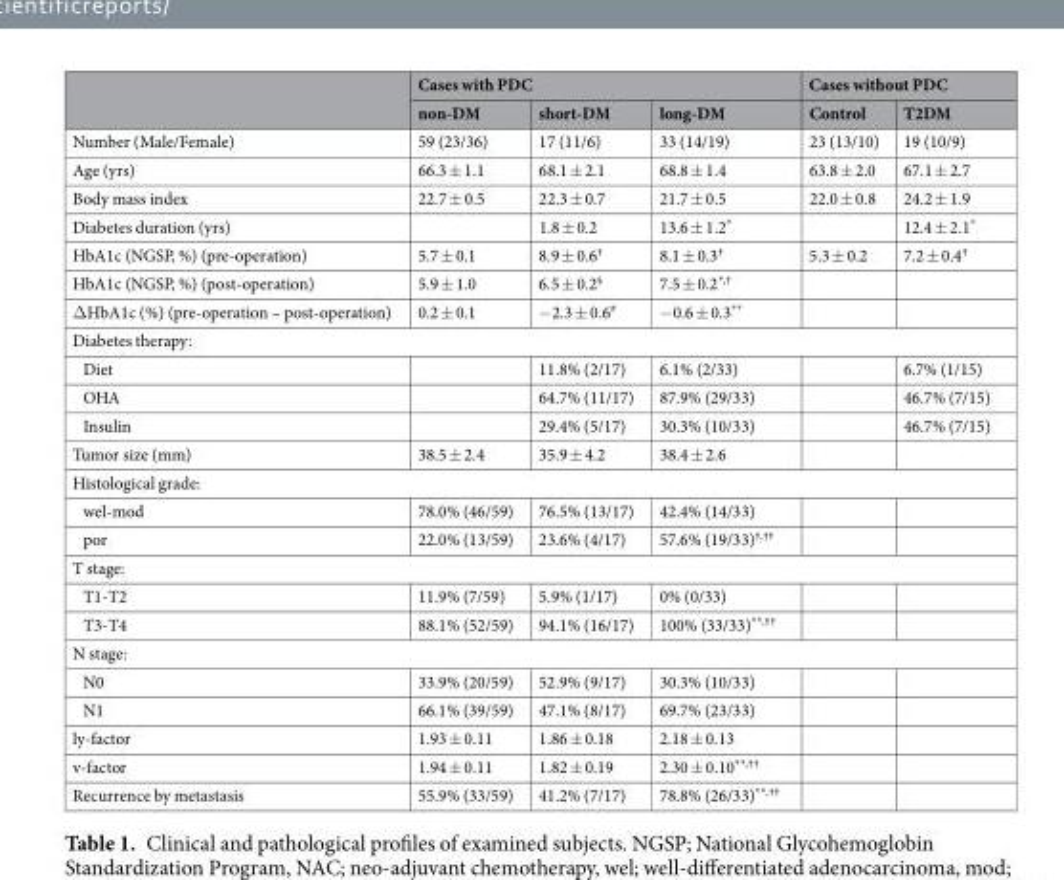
<table><thead><tr><td rowspan="2"></td><td colspan="3">Cases with PDC</td><td colspan="2">Cases without PDC</td></tr><tr><td>non-DM</td><td>short-DM</td><td>long-DM</td><td>Control</td><td>T2DM</td></tr></thead><tbody><tr><td>Number (Male/Female)</td><td>59 (23/36)</td><td>17 (11/6)</td><td>33 (14/19)</td><td>23 (13/10)</td><td>19 (10/9)</td></tr><tr><td>Age (yrs)</td><td>66.3 ± 1.1</td><td>68.1 ± 2.1</td><td>68.8 ± 1.4</td><td>63.8 ± 2.0</td><td>67.1 ± 2.7</td></tr><tr><td>Body mass index</td><td>22.7 ± 0.5</td><td>22.3 ± 0.7</td><td>21.7 ± 0.5</td><td>22.0 ± 0.8</td><td>24.2 ± 1.9</td></tr><tr><td>Diabetes duration (yrs)</td><td></td><td>1.8 ± 0.2</td><td>13.6 ± 1.2*</td><td></td><td>12.4 ± 2.1*</td></tr><tr><td>HbA1c (NGSP, %) (pre-operation)</td><td>5.7 ± 0.1</td><td>8.9 ± 0.6<sup>†</sup></td><td>8.1 ± 0.3<sup>†</sup></td><td>5.3 ± 0.2</td><td>7.2 ± 0.4<sup>†</sup></td></tr><tr><td>HbA1c (NGSP, %) (post-operation)</td><td>5.9 ± 1.0</td><td>6.5 ± 0.2<sup>§</sup></td><td>7.5 ± 0.2<sup>*,†</sup></td><td></td><td></td></tr><tr><td>ΔHbA1c (%) (pre-operation – post-operation)</td><td>0.2 ± 0.1</td><td>−2.3 ± 0.6<sup>#</sup></td><td>−0.6 ± 0.3**</td><td></td><td></td></tr><tr><td colspan="6">Diabetes therapy:</td></tr><tr><td>Diet</td><td></td><td>11.8% (2/17)</td><td>6.1% (2/33)</td><td></td><td>6.7% (1/15)</td></tr><tr><td>OHA</td><td></td><td>64.7% (11/17)</td><td>87.9% (29/33)</td><td></td><td>46.7% (7/15)</td></tr><tr><td>Insulin</td><td></td><td>29.4% (5/17)</td><td>30.3% (10/33)</td><td></td><td>46.7% (7/15)</td></tr><tr><td>Tumor size (mm)</td><td>38.5 ± 2.4</td><td>35.9 ± 4.2</td><td>38.4 ± 2.6</td><td></td><td></td></tr><tr><td colspan="6">Histological grade:</td></tr><tr><td>wel-mod</td><td>78.0% (46/59)</td><td>76.5% (13/17)</td><td>42.4% (14/33)</td><td></td><td></td></tr><tr><td>por</td><td>22.0% (13/59)</td><td>23.6% (4/17)</td><td>57.6% (19/33)<sup>†,††</sup></td><td></td><td></td></tr><tr><td colspan="6">T stage:</td></tr><tr><td>T1-T2</td><td>11.9% (7/59)</td><td>5.9% (1/17)</td><td>0% (0/33)</td><td></td><td></td></tr><tr><td>T3-T4</td><td>88.1% (52/59)</td><td>94.1% (16/17)</td><td>100% (33/33)<sup>**,††</sup></td><td></td><td></td></tr><tr><td colspan="6">N stage:</td></tr><tr><td>N0</td><td>33.9% (20/59)</td><td>52.9% (9/17)</td><td>30.3% (10/33)</td><td></td><td></td></tr><tr><td>N1</td><td>66.1% (39/59)</td><td>47.1% (8/17)</td><td>69.7% (23/33)</td><td></td><td></td></tr><tr><td>ly-factor</td><td>1.93 ± 0.11</td><td>1.86 ± 0.18</td><td>2.18 ± 0.13</td><td></td><td></td></tr><tr><td>v-factor</td><td>1.94 ± 0.11</td><td>1.82 ± 0.19</td><td>2.30 ± 0.10<sup>**,††</sup></td><td></td><td></td></tr><tr><td>Recurrence by metastasis</td><td>55.9% (33/59)</td><td>41.2% (7/17)</td><td>78.8% (26/33)<sup>**,††</sup></td><td></td><td></td></tr></tbody></table>